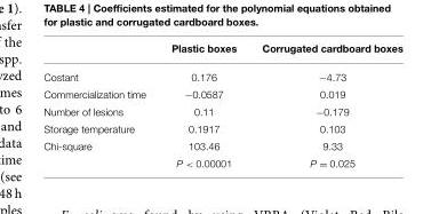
<table><thead><tr><td></td><td>Plastic boxes</td><td>Corrugated cardboard boxes</td></tr></thead><tbody><tr><td>Costant</td><td>0.176</td><td>−4.73</td></tr><tr><td>Commercialization time</td><td>−0.0587</td><td>0.019</td></tr><tr><td>Number of lesions</td><td>0.11</td><td>−0.179</td></tr><tr><td>Storage temperature</td><td>0.1917</td><td>0.103</td></tr><tr><td rowspan="2">Chi-square</td><td>103.46</td><td>9.33</td></tr><tr><td>P &lt; 0.00001</td><td>P = 0.025</td></tr></tbody></table>